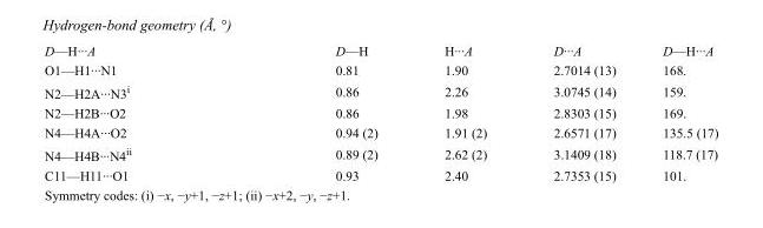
<table><tbody><tr><td>D—H···A</td><td>D—H</td><td>H···A</td><td>D···A</td><td>D—H···A</td></tr><tr><td>O1—H1···N1</td><td>0.81</td><td>1.90</td><td>2.7014 (13)</td><td>168.</td></tr><tr><td>N2—H2A···N3<sup>i</sup></td><td>0.86</td><td>2.26</td><td>3.0745 (14)</td><td>159.</td></tr><tr><td>N2—H2B···O2</td><td>0.86</td><td>1.98</td><td>2.8303 (15)</td><td>169.</td></tr><tr><td>N4—H4A···O2</td><td>0.94 (2)</td><td>1.91 (2)</td><td>2.6571 (17)</td><td>135.5 (17)</td></tr><tr><td>N4—H4B···N4<sup>ii</sup></td><td>0.89 (2)</td><td>2.62 (2)</td><td>3.1409 (18)</td><td>118.7 (17)</td></tr><tr><td>C11—H11···O1</td><td>0.93</td><td>2.40</td><td>2.7353 (15)</td><td>101.</td></tr></tbody></table>